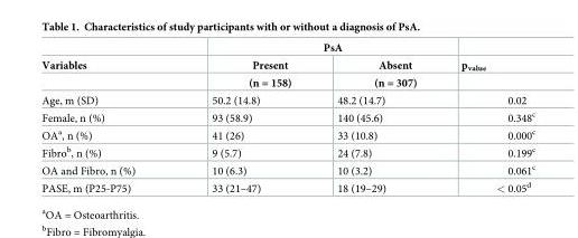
<table><thead><tr><td rowspan="3">Variables</td><td colspan="2">PsA</td><td rowspan="3">p<sub>value</sub></td></tr><tr><td rowspan="2">Present (n = 158)</td><td rowspan="2">Absent (n = 307)</td></tr><tr></tr></thead><tbody><tr><td>Age, m (SD)</td><td>50.2 (14.8)</td><td>48.2 (14.7)</td><td>0.02</td></tr><tr><td>Female, n (%)</td><td>93 (58.9)</td><td>140 (45.6)</td><td>0.348<sup>c</sup></td></tr><tr><td>OA<sup>a</sup>, n (%)</td><td>41 (26)</td><td>33 (10.8)</td><td>0.000<sup>c</sup></td></tr><tr><td>Fibro<sup>b</sup>, n (%)</td><td>9 (5.7)</td><td>24 (7.8)</td><td>0.199<sup>c</sup></td></tr><tr><td>OA and Fibro, n (%)</td><td>10 (6.3)</td><td>10 (3.2)</td><td>0.061<sup>c</sup></td></tr><tr><td>PASE, m (P25-P75)</td><td>33 (21–47)</td><td>18 (19–29)</td><td>&lt; 0.05<sup>d</sup></td></tr></tbody></table>